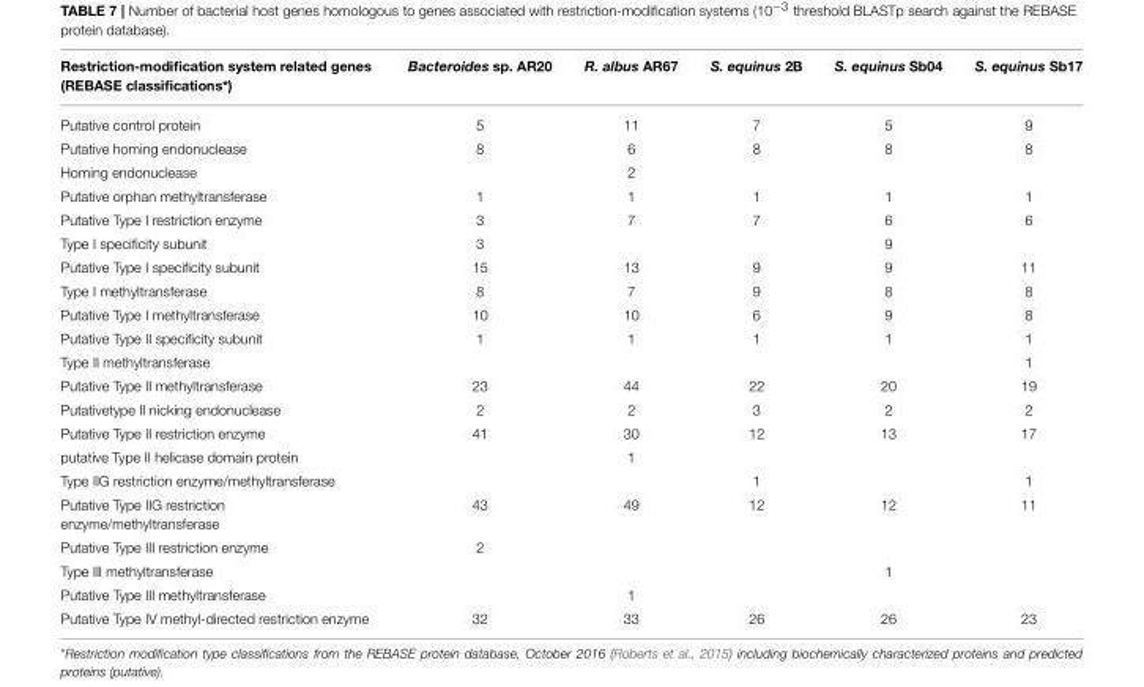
<table><thead><tr><td>Restriction-modification system related genes (REBASE classifications*)</td><td>Bacteroides sp. AR20</td><td>R. albus AR67</td><td>S. equinus 2B</td><td>S. equinus Sb04</td><td>S. equinus Sb17</td></tr></thead><tbody><tr><td>Putative control protein</td><td>5</td><td>11</td><td>7</td><td>5</td><td>9</td></tr><tr><td>Putative homing endonuclease</td><td>8</td><td>6</td><td>8</td><td>8</td><td>8</td></tr><tr><td>Homing endonuclease</td><td></td><td>2</td><td></td><td></td><td></td></tr><tr><td>Putative orphan methyltransferase</td><td>1</td><td>1</td><td>1</td><td>1</td><td>1</td></tr><tr><td>Putative Type I restriction enzyme</td><td>3</td><td>7</td><td>7</td><td>6</td><td>6</td></tr><tr><td>Type I specificity subunit</td><td>3</td><td></td><td></td><td>9</td><td></td></tr><tr><td>Putative Type I specificity subunit</td><td>15</td><td>13</td><td>9</td><td>9</td><td>11</td></tr><tr><td>Type I methyltransferase</td><td>8</td><td>7</td><td>9</td><td>8</td><td>8</td></tr><tr><td>Putative Type I methyltransferase</td><td>10</td><td>10</td><td>6</td><td>9</td><td>8</td></tr><tr><td>Putative Type II specificity subunit</td><td>1</td><td>1</td><td>1</td><td>1</td><td>1</td></tr><tr><td>Type II methyltransferase</td><td></td><td></td><td></td><td></td><td>1</td></tr><tr><td>Putative Type II methyltransferase</td><td>23</td><td>44</td><td>22</td><td>20</td><td>19</td></tr><tr><td>Putativetype II nicking endonuclease</td><td>2</td><td>2</td><td>3</td><td>2</td><td>2</td></tr><tr><td>Putative Type II restriction enzyme</td><td>41</td><td>30</td><td>12</td><td>13</td><td>17</td></tr><tr><td>putative Type II helicase domain protein</td><td></td><td>1</td><td></td><td></td><td></td></tr><tr><td>Type IIG restriction enzyme/methyltransferase</td><td></td><td></td><td>1</td><td></td><td>1</td></tr><tr><td>Putative Type IIG restriction enzyme/methyltransferase</td><td>43</td><td>49</td><td>12</td><td>12</td><td>11</td></tr><tr><td>Putative Type III restriction enzyme</td><td>2</td><td></td><td></td><td></td><td></td></tr><tr><td>Type III methyltransferase</td><td></td><td></td><td></td><td>1</td><td></td></tr><tr><td>Putative Type III methyltransferase</td><td></td><td>1</td><td></td><td></td><td></td></tr><tr><td>Putative Type IV methyl-directed restriction enzyme</td><td>32</td><td>33</td><td>26</td><td>26</td><td>23</td></tr></tbody></table>